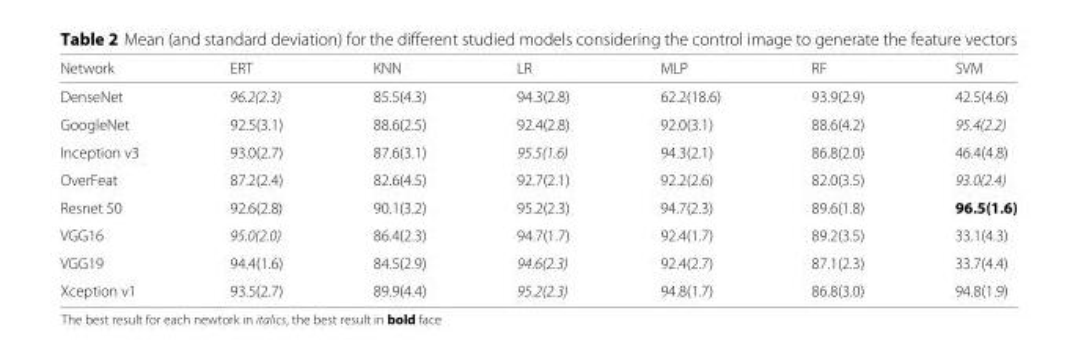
<table><thead><tr><td>Network</td><td>ERT</td><td>KNN</td><td>LR</td><td>MLP</td><td>RF</td><td>SVM</td></tr></thead><tbody><tr><td>DenseNet</td><td>96.2(2.3)</td><td>85.5(4.3)</td><td>94.3(2.8)</td><td>62.2(18.6)</td><td>93.9(2.9)</td><td>42.5(4.6)</td></tr><tr><td>GoogleNet</td><td>92.5(3.1)</td><td>88.6(2.5)</td><td>92.4(2.8)</td><td>92.0(3.1)</td><td>88.6(4.2)</td><td>95.4(2.2)</td></tr><tr><td>Inception v3</td><td>93.0(2.7)</td><td>87.6(3.1)</td><td>95.5(1.6)</td><td>94.3(2.1)</td><td>86.8(2.0)</td><td>46.4(4.8)</td></tr><tr><td>OverFeat</td><td>87.2(2.4)</td><td>82.6(4.5)</td><td>92.7(2.1)</td><td>92.2(2.6)</td><td>82.0(3.5)</td><td>93.0(2.4)</td></tr><tr><td>Resnet 50</td><td>92.6(2.8)</td><td>90.1(3.2)</td><td>95.2(2.3)</td><td>94.7(2.3)</td><td>89.6(1.8)</td><td>96.5(1.6)</td></tr><tr><td>VGG16</td><td>95.0(2.0)</td><td>86.4(2.3)</td><td>94.7(1.7)</td><td>92.4(1.7)</td><td>89.2(3.5)</td><td>33.1(4.3)</td></tr><tr><td>VGG19</td><td>94.4(1.6)</td><td>84.5(2.9)</td><td>94.6(2.3)</td><td>92.4(2.7)</td><td>87.1(2.3)</td><td>33.7(4.4)</td></tr><tr><td>Xception v1</td><td>93.5(2.7)</td><td>89.9(4.4)</td><td>95.2(2.3)</td><td>94.8(1.7)</td><td>86.8(3.0)</td><td>94.8(1.9)</td></tr></tbody></table>